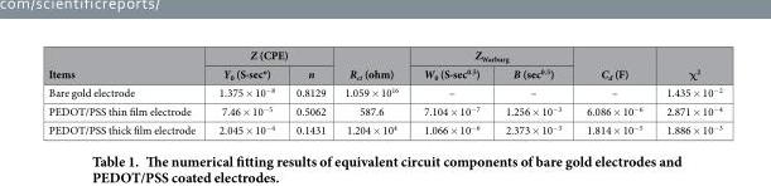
<table><thead><tr><td rowspan="2">Items</td><td colspan="2">Z (CPE)</td><td rowspan="2">R<sub>ct</sub> (ohm)</td><td colspan="2">Z<sub>Warburg</sub></td><td rowspan="2">C<sub>d</sub> (F)</td><td rowspan="2">χ<sup>2</sup></td></tr><tr><td>Y<sub>0</sub> (S·sec<sup>n</sup>)</td><td>n</td><td>W<sub>0</sub> (S·sec<sup>0.5</sup>)</td><td>B (sec<sup>0.5</sup>)</td></tr></thead><tbody><tr><td>Bare gold electrode</td><td>1.375 × 10<sup>−8</sup></td><td>0.8129</td><td>1.059 × 10<sup>16</sup></td><td>–</td><td>–</td><td>–</td><td>1.435 × 10<sup>−2</sup></td></tr><tr><td>PEDOT/PSS thin film electrode</td><td>7.46 × 10<sup>−5</sup></td><td>0.5062</td><td>587.6</td><td>7.104 × 10<sup>−7</sup></td><td>1.256 × 10<sup>−3</sup></td><td>6.086 × 10<sup>−6</sup></td><td>2.871 × 10<sup>−4</sup></td></tr><tr><td>PEDOT/PSS thick film electrode</td><td>2.045 × 10<sup>−4</sup></td><td>0.1431</td><td>1.204 × 10<sup>4</sup></td><td>1.066 × 10<sup>−6</sup></td><td>2.373 × 10<sup>−3</sup></td><td>1.814 × 10<sup>−5</sup></td><td>1.886 × 10<sup>−3</sup></td></tr></tbody></table>